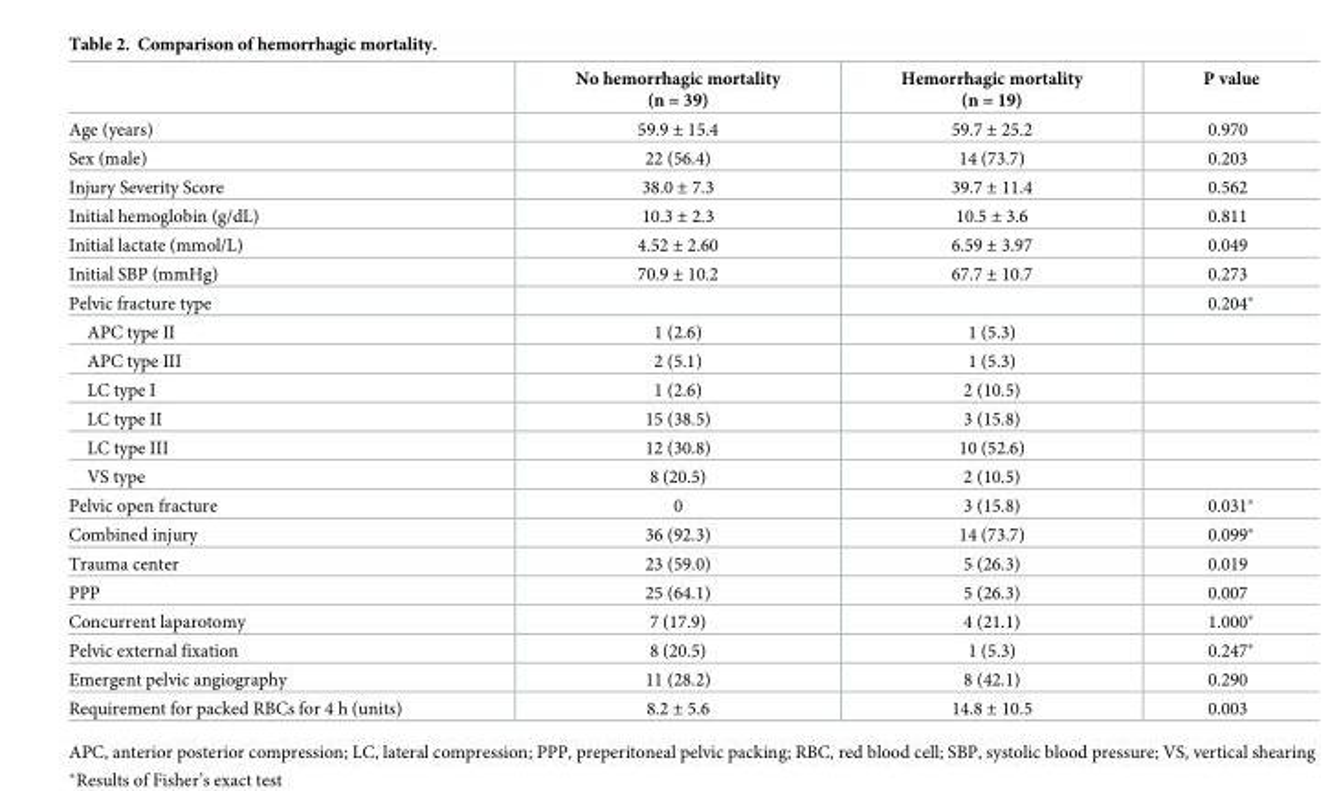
<table><thead><tr><td></td><td>No hemorrhagic mortality (n = 39)</td><td>Hemorrhagic mortality (n = 19)</td><td>P value</td></tr></thead><tbody><tr><td>Age (years)</td><td>59.9 ± 15.4</td><td>59.7 ± 25.2</td><td>0.970</td></tr><tr><td>Sex (male)</td><td>22 (56.4)</td><td>14 (73.7)</td><td>0.203</td></tr><tr><td>Injury Severity Score</td><td>38.0 ± 7.3</td><td>39.7 ± 11.4</td><td>0.562</td></tr><tr><td>Initial hemoglobin (g/dL)</td><td>10.3 ± 2.3</td><td>10.5 ± 3.6</td><td>0.811</td></tr><tr><td>Initial lactate (mmol/L)</td><td>4.52 ± 2.60</td><td>6.59 ± 3.97</td><td>0.049</td></tr><tr><td>Initial SBP (mmHg)</td><td>70.9 ± 10.2</td><td>67.7 ± 10.7</td><td>0.273</td></tr><tr><td>Pelvic fracture type</td><td></td><td></td><td>0.204*</td></tr><tr><td>APC type II</td><td>1 (2.6)</td><td>1 (5.3)</td><td></td></tr><tr><td>APC type III</td><td>2 (5.1)</td><td>1 (5.3)</td><td></td></tr><tr><td>LC type I</td><td>1 (2.6)</td><td>2 (10.5)</td><td></td></tr><tr><td>LC type II</td><td>15 (38.5)</td><td>3 (15.8)</td><td></td></tr><tr><td>LC type III</td><td>12 (30.8)</td><td>10 (52.6)</td><td></td></tr><tr><td>VS type</td><td>8 (20.5)</td><td>2 (10.5)</td><td></td></tr><tr><td>Pelvic open fracture</td><td>0</td><td>3 (15.8)</td><td>0.031*</td></tr><tr><td>Combined injury</td><td>36 (92.3)</td><td>14 (73.7)</td><td>0.099*</td></tr><tr><td>Trauma center</td><td>23 (59.0)</td><td>5 (26.3)</td><td>0.019</td></tr><tr><td>PPP</td><td>25 (64.1)</td><td>5 (26.3)</td><td>0.007</td></tr><tr><td>Concurrent laparotomy</td><td>7 (17.9)</td><td>4 (21.1)</td><td>1.000*</td></tr><tr><td>Pelvic external fixation</td><td>8 (20.5)</td><td>1 (5.3)</td><td>0.247*</td></tr><tr><td>Emergent pelvic angiography</td><td>11 (28.2)</td><td>8 (42.1)</td><td>0.290</td></tr><tr><td>Requirement for packed RBCs for 4 h (units)</td><td>8.2 ± 5.6</td><td>14.8 ± 10.5</td><td>0.003</td></tr></tbody></table>